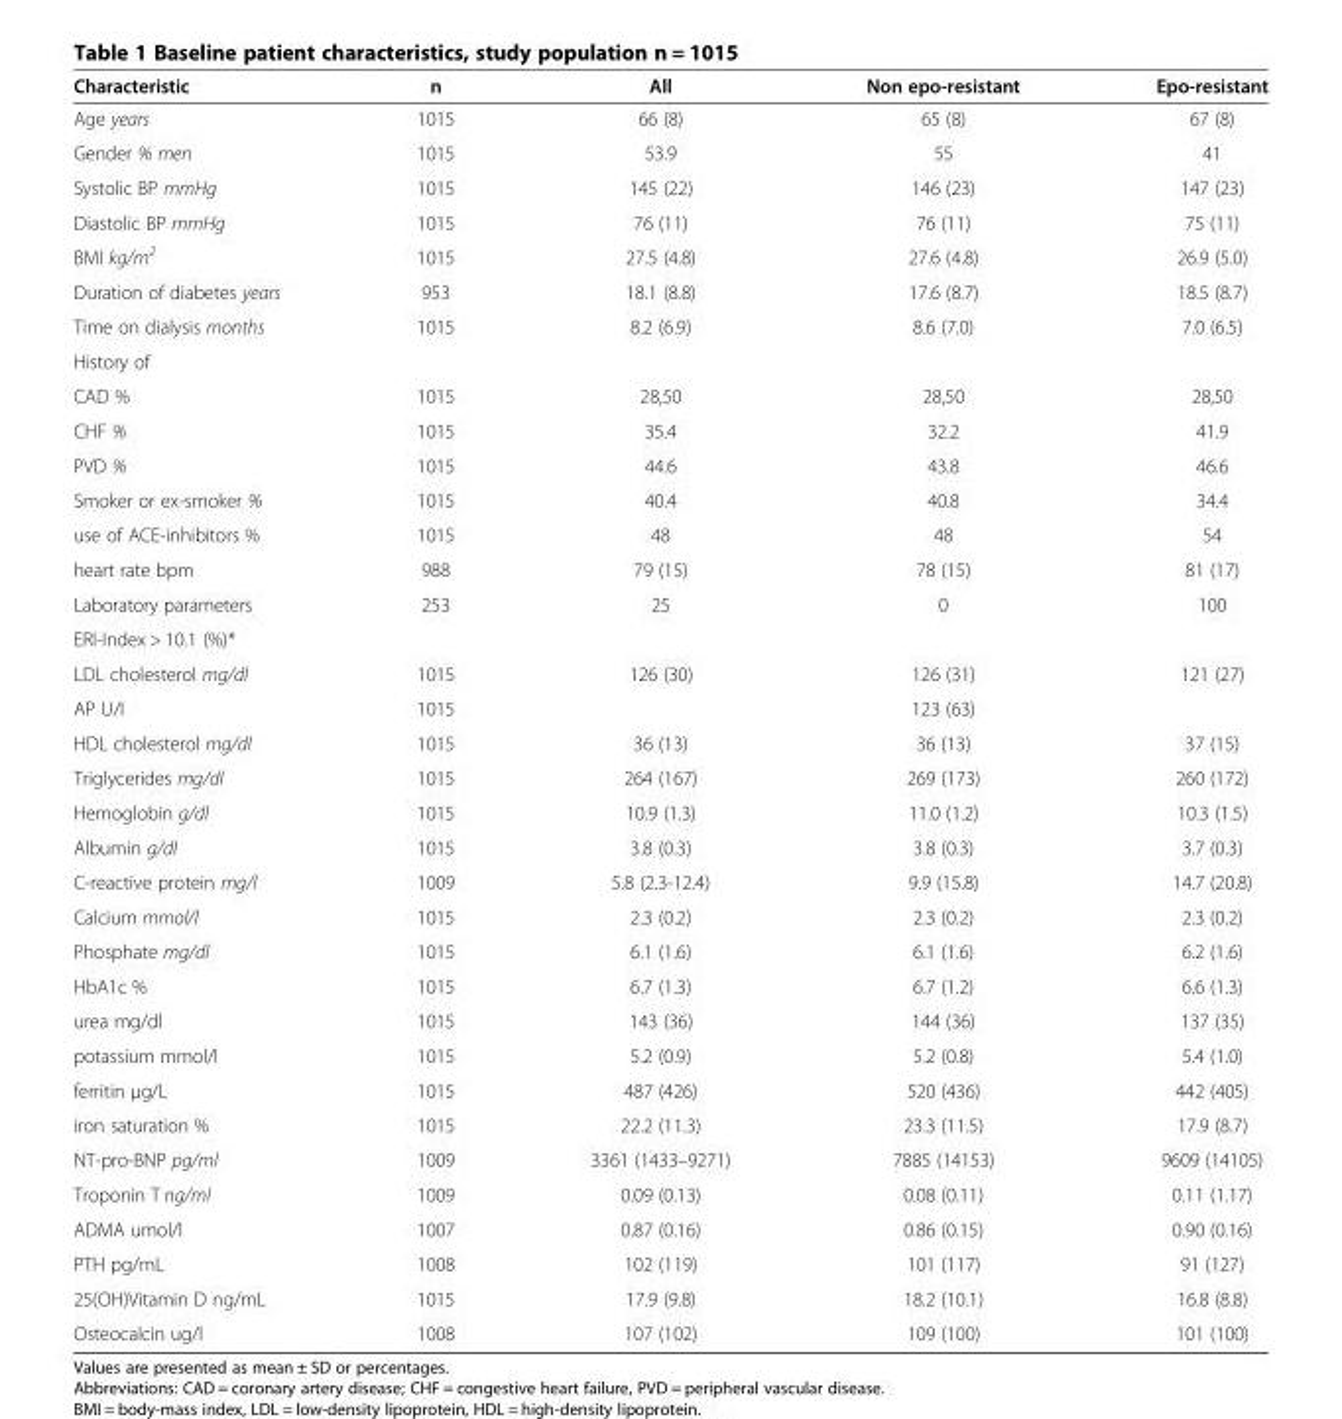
<table><thead><tr><td>Characteristic</td><td>n</td><td>All</td><td>Non epo-resistant</td><td>Epo-resistant</td></tr></thead><tbody><tr><td>Age years</td><td>1015</td><td>66 (8)</td><td>65 (8)</td><td>67 (8)</td></tr><tr><td>Gender % men</td><td>1015</td><td>53.9</td><td>55</td><td>41</td></tr><tr><td>Systolic BP mmHg</td><td>1015</td><td>145 (22)</td><td>146 (23)</td><td>147 (23)</td></tr><tr><td>Diastolic BP mmHg</td><td>1015</td><td>76 (11)</td><td>76 (11)</td><td>75 (11)</td></tr><tr><td>BMI kg/m<sup>2</sup></td><td>1015</td><td>27.5 (4.8)</td><td>27.6 (4.8)</td><td>26.9 (5.0)</td></tr><tr><td>Duration of diabetes years</td><td>953</td><td>18.1 (8.8)</td><td>17.6 (8.7)</td><td>18.5 (8.7)</td></tr><tr><td>Time on dialysis months</td><td>1015</td><td>8.2 (6.9)</td><td>8.6 (7.0)</td><td>7.0 (6.5)</td></tr><tr><td colspan="5">History of</td></tr><tr><td>CAD %</td><td>1015</td><td>28,50</td><td>28,50</td><td>28,50</td></tr><tr><td>CHF %</td><td>1015</td><td>35.4</td><td>32.2</td><td>41.9</td></tr><tr><td>PVD %</td><td>1015</td><td>44.6</td><td>43.8</td><td>46.6</td></tr><tr><td>Smoker or ex-smoker %</td><td>1015</td><td>40.4</td><td>40.8</td><td>34.4</td></tr><tr><td>use of ACE-inhibitors %</td><td>1015</td><td>48</td><td>48</td><td>54</td></tr><tr><td>heart rate bpm</td><td>988</td><td>79 (15)</td><td>78 (15)</td><td>81 (17)</td></tr><tr><td>Laboratory parameters</td><td>253</td><td>25</td><td>0</td><td>100</td></tr><tr><td colspan="5">ERI-Index &gt; 10.1 (%)*</td></tr><tr><td>LDL cholesterol mg/dl</td><td>1015</td><td>126 (30)</td><td>126 (31)</td><td>121 (27)</td></tr><tr><td>AP U/I</td><td>1015</td><td></td><td>123 (63)</td><td></td></tr><tr><td>HDL cholesterol mg/dl</td><td>1015</td><td>36 (13)</td><td>36 (13)</td><td>37 (15)</td></tr><tr><td>Triglycerides mg/dl</td><td>1015</td><td>264 (167)</td><td>269 (173)</td><td>260 (172)</td></tr><tr><td>Hemoglobin g/dl</td><td>1015</td><td>10.9 (1.3)</td><td>11.0 (1.2)</td><td>10.3 (1.5)</td></tr><tr><td>Albumin g/dl</td><td>1015</td><td>3.8 (0.3)</td><td>3.8 (0.3)</td><td>3.7 (0.3)</td></tr><tr><td>C-reactive protein mg/l</td><td>1009</td><td>5.8 (2.3-12.4)</td><td>9.9 (15.8)</td><td>14.7 (20.8)</td></tr><tr><td>Calcium mmol/l</td><td>1015</td><td>2.3 (0.2)</td><td>2.3 (0.2)</td><td>2.3 (0.2)</td></tr><tr><td>Phosphate mg/dl</td><td>1015</td><td>6.1 (1.6)</td><td>6.1 (1.6)</td><td>6.2 (1.6)</td></tr><tr><td>HbA1c %</td><td>1015</td><td>6.7 (1.3)</td><td>6.7 (1.2)</td><td>6.6 (1.3)</td></tr><tr><td>urea mg/dl</td><td>1015</td><td>143 (36)</td><td>144 (36)</td><td>137 (35)</td></tr><tr><td>potassium mmol/l</td><td>1015</td><td>5.2 (0.9)</td><td>5.2 (0.8)</td><td>5.4 (1.0)</td></tr><tr><td>ferritin μg/L</td><td>1015</td><td>487 (426)</td><td>520 (436)</td><td>442 (405)</td></tr><tr><td>iron saturation %</td><td>1015</td><td>22.2 (11.3)</td><td>23.3 (11.5)</td><td>17.9 (8.7)</td></tr><tr><td>NT-pro-BNP pg/ml</td><td>1009</td><td>3361 (1433–9271)</td><td>7885 (14153)</td><td>9609 (14105)</td></tr><tr><td>Troponin T ng/ml</td><td>1009</td><td>0.09 (0.13)</td><td>0.08 (0.11)</td><td>0.11 (1.17)</td></tr><tr><td>ADMA umol/l</td><td>1007</td><td>0.87 (0.16)</td><td>0.86 (0.15)</td><td>0.90 (0.16)</td></tr><tr><td>PTH pg/mL</td><td>1008</td><td>102 (119)</td><td>101 (117)</td><td>91 (127)</td></tr><tr><td>25(OH)Vitamin D ng/mL</td><td>1015</td><td>17.9 (9.8)</td><td>18.2 (10.1)</td><td>16.8 (8.8)</td></tr><tr><td>Osteocalcin ug/l</td><td>1008</td><td>107 (102)</td><td>109 (100)</td><td>101 (100)</td></tr></tbody></table>